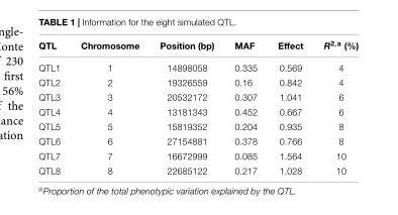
<table><thead><tr><td>QTL</td><td>Chromosome</td><td>Position (bp)</td><td>MAF</td><td>Effect</td><td>R<sup>2,a</sup> (%)</td></tr></thead><tbody><tr><td>QTL1</td><td>1</td><td>14898058</td><td>0.335</td><td>0.569</td><td>4</td></tr><tr><td>QTL2</td><td>2</td><td>19326559</td><td>0.16</td><td>0.842</td><td>4</td></tr><tr><td>QTL3</td><td>3</td><td>20532172</td><td>0.307</td><td>1.041</td><td>6</td></tr><tr><td>QTL4</td><td>4</td><td>13181343</td><td>0.452</td><td>0.667</td><td>6</td></tr><tr><td>QTL5</td><td>5</td><td>15819352</td><td>0.204</td><td>0.935</td><td>8</td></tr><tr><td>QTL6</td><td>6</td><td>27154881</td><td>0.378</td><td>0.766</td><td>8</td></tr><tr><td>QTL7</td><td>7</td><td>16672999</td><td>0.085</td><td>1.564</td><td>10</td></tr><tr><td>QTL8</td><td>8</td><td>22685122</td><td>0.217</td><td>1.028</td><td>10</td></tr></tbody></table>